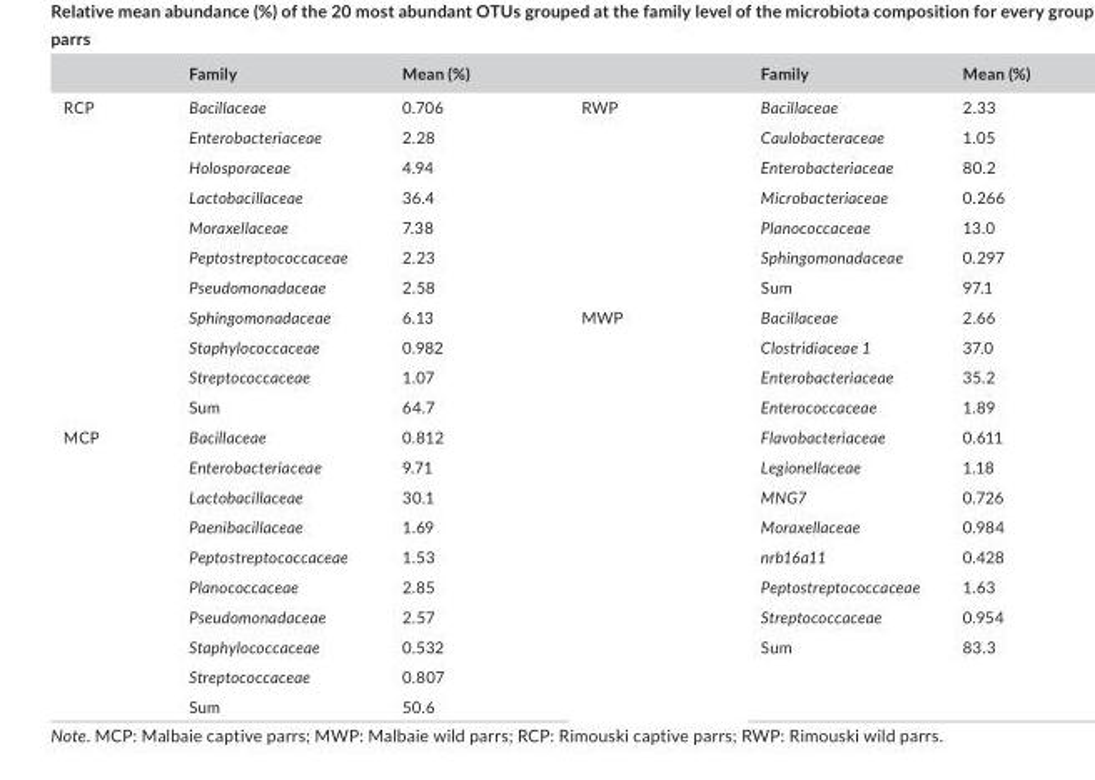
<table><thead><tr><td></td><td>Family</td><td>Mean (%)</td><td></td><td>Family</td><td>Mean (%)</td></tr></thead><tbody><tr><td rowspan="11">RCP</td><td>Bacillaceae</td><td>0.706</td><td rowspan="7">RWP</td><td>Bacillaceae</td><td>2.33</td></tr><tr><td>Enterobacteriaceae</td><td>2.28</td><td>Caulobacteraceae</td><td>1.05</td></tr><tr><td>Holosporaceae</td><td>4.94</td><td>Enterobacteriaceae</td><td>80.2</td></tr><tr><td>Lactobacillaceae</td><td>36.4</td><td>Microbacteriaceae</td><td>0.266</td></tr><tr><td>Moraxellaceae</td><td>7.38</td><td>Planococcaceae</td><td>13.0</td></tr><tr><td>Peptostreptococcaceae</td><td>2.23</td><td>Sphingomonadaceae</td><td>0.297</td></tr><tr><td>Pseudomonadaceae</td><td>2.58</td><td>Sum</td><td>97.1</td></tr><tr><td>Sphingomonadaceae</td><td>6.13</td><td rowspan="14">MWP</td><td>Bacillaceae</td><td>2.66</td></tr><tr><td>Staphylococcaceae</td><td>0.982</td><td>Clostridiaceae 1</td><td>37.0</td></tr><tr><td>Streptococcaceae</td><td>1.07</td><td>Enterobacteriaceae</td><td>35.2</td></tr><tr><td>Sum</td><td>64.7</td><td>Enterococcaceae</td><td>1.89</td></tr><tr><td rowspan="10">MCP</td><td>Bacillaceae</td><td>0.812</td><td>Flavobacteriaceae</td><td>0.611</td></tr><tr><td>Enterobacteriaceae</td><td>9.71</td><td>Legionellaceae</td><td>1.18</td></tr><tr><td>Lactobacillaceae</td><td>30.1</td><td>MNG7</td><td>0.726</td></tr><tr><td>Paenibacillaceae</td><td>1.69</td><td>Moraxellaceae</td><td>0.984</td></tr><tr><td>Peptostreptococcaceae</td><td>1.53</td><td>nrb16a11</td><td>0.428</td></tr><tr><td>Planococcaceae</td><td>2.85</td><td>Peptostreptococcaceae</td><td>1.63</td></tr><tr><td>Pseudomonadaceae</td><td>2.57</td><td>Streptococcaceae</td><td>0.954</td></tr><tr><td>Staphylococcaceae</td><td>0.532</td><td>Sum</td><td>83.3</td></tr><tr><td>Streptococcaceae</td><td>0.807</td><td></td><td></td></tr><tr><td>Sum</td><td>50.6</td><td></td><td></td></tr></tbody></table>